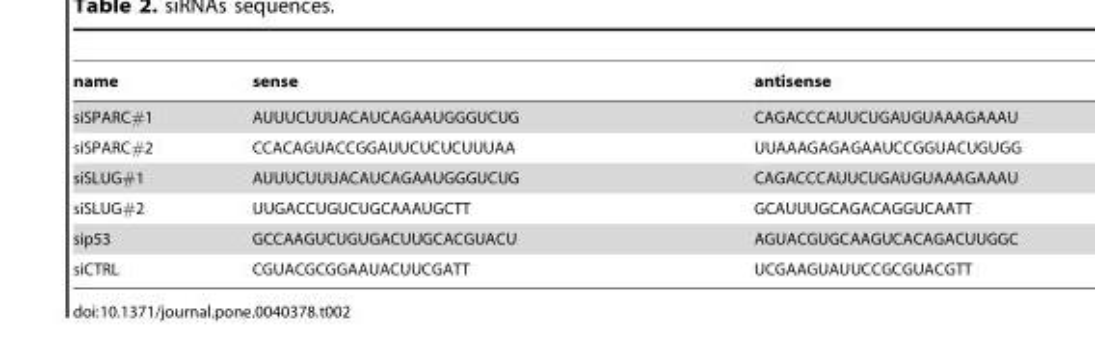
<table><thead><tr><td>name</td><td>sense</td><td>antisense</td></tr></thead><tbody><tr><td>siSPARC#1</td><td>AUUUCUUUACAUCAGAAUGGGUCUG</td><td>CAGACCCAUUCUGAUGUAAAGAAAU</td></tr><tr><td>siSPARC#2</td><td>CCACAGUACCGGAUUCUCUCUUUAA</td><td>UUAAAGAGAGAAUCCGGUACUGUGG</td></tr><tr><td>siSLUG#1</td><td>AUUUCUUUACAUCAGAAUGGGUCUG</td><td>CAGACCCAUUCUGAUGUAAAGAAAU</td></tr><tr><td>siSLUG#2</td><td>UUGACCUGUCUGCAAAUGCTT</td><td>GCAUUUGCAGACAGGUCAATT</td></tr><tr><td>sip53</td><td>GCCAAGUCUGUGACUUGCACGUACU</td><td>AGUACGUGCAAGUCACAGACUUGGC</td></tr><tr><td>siCTRL</td><td>CGUACGCGGAAUACUUCGATT</td><td>UCGAAGUAUUCCGCGUACGTT</td></tr></tbody></table>